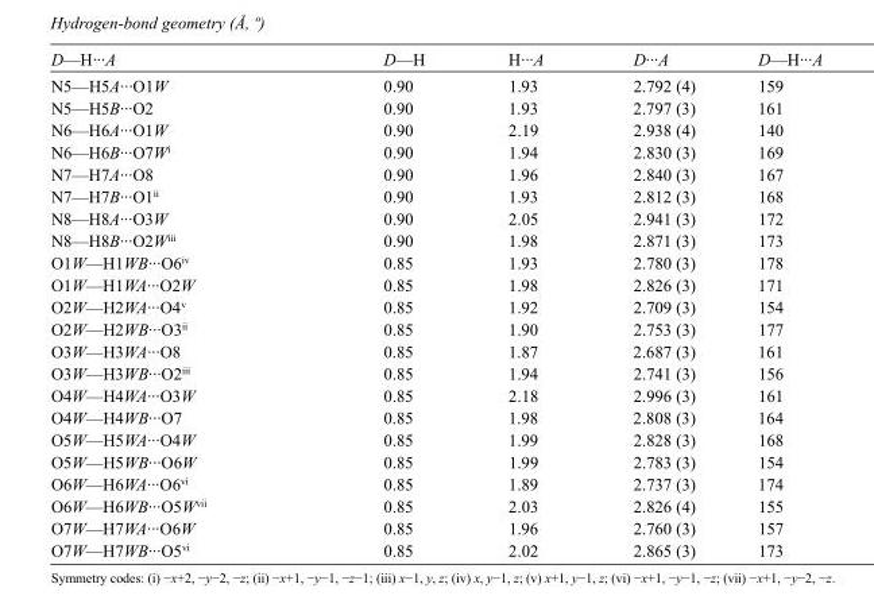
<table><tbody><tr><td>D—H···A</td><td>D—H</td><td>H···A</td><td>D···A</td><td>D—H···A</td></tr><tr><td>N5—H5A···O1W</td><td>0.90</td><td>1.93</td><td>2.792 (4)</td><td>159</td></tr><tr><td>N5—H5B···O2</td><td>0.90</td><td>1.93</td><td>2.797 (3)</td><td>161</td></tr><tr><td>N6—H6A···O1W</td><td>0.90</td><td>2.19</td><td>2.938 (4)</td><td>140</td></tr><tr><td>N6—H6B···O7W<sup>i</sup></td><td>0.90</td><td>1.94</td><td>2.830 (3)</td><td>169</td></tr><tr><td>N7—H7A···O8</td><td>0.90</td><td>1.96</td><td>2.840 (3)</td><td>167</td></tr><tr><td>N7—H7B···O1<sup>ii</sup></td><td>0.90</td><td>1.93</td><td>2.812 (3)</td><td>168</td></tr><tr><td>N8—H8A···O3W</td><td>0.90</td><td>2.05</td><td>2.941 (3)</td><td>172</td></tr><tr><td>N8—H8B···O2W<sup>iii</sup></td><td>0.90</td><td>1.98</td><td>2.871 (3)</td><td>173</td></tr><tr><td>O1W—H1WB···O6<sup>iv</sup></td><td>0.85</td><td>1.93</td><td>2.780 (3)</td><td>178</td></tr><tr><td>O1W—H1WA···O2W</td><td>0.85</td><td>1.98</td><td>2.826 (3)</td><td>171</td></tr><tr><td>O2W—H2WA···O4<sup>v</sup></td><td>0.85</td><td>1.92</td><td>2.709 (3)</td><td>154</td></tr><tr><td>O2W—H2WB···O3<sup>ii</sup></td><td>0.85</td><td>1.90</td><td>2.753 (3)</td><td>177</td></tr><tr><td>O3W—H3WA···O8</td><td>0.85</td><td>1.87</td><td>2.687 (3)</td><td>161</td></tr><tr><td>O3W—H3WB···O2<sup>iii</sup></td><td>0.85</td><td>1.94</td><td>2.741 (3)</td><td>156</td></tr><tr><td>O4W—H4WA···O3W</td><td>0.85</td><td>2.18</td><td>2.996 (3)</td><td>161</td></tr><tr><td>O4W—H4WB···O7</td><td>0.85</td><td>1.98</td><td>2.808 (3)</td><td>164</td></tr><tr><td>O5W—H5WA···O4W</td><td>0.85</td><td>1.99</td><td>2.828 (3)</td><td>168</td></tr><tr><td>O5W—H5WB···O6W</td><td>0.85</td><td>1.99</td><td>2.783 (3)</td><td>154</td></tr><tr><td>O6W—H6WA···O6<sup>vi</sup></td><td>0.85</td><td>1.89</td><td>2.737 (3)</td><td>174</td></tr><tr><td>O6W—H6WB···O5W<sup>vii</sup></td><td>0.85</td><td>2.03</td><td>2.826 (4)</td><td>155</td></tr><tr><td>O7W—H7WA···O6W</td><td>0.85</td><td>1.96</td><td>2.760 (3)</td><td>157</td></tr><tr><td>O7W—H7WB···O5<sup>vi</sup></td><td>0.85</td><td>2.02</td><td>2.865 (3)</td><td>173</td></tr></tbody></table>